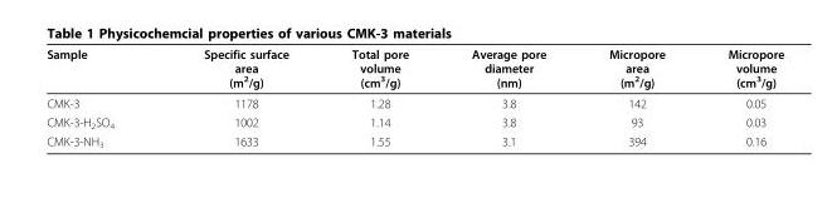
<table><thead><tr><td>Sample</td><td>Specific surface area (m<sup>2</sup>/g)</td><td>Total pore volume (cm<sup>3</sup>/g)</td><td>Average pore diameter (nm)</td><td>Micropore area (m<sup>2</sup>/g)</td><td>Micropore volume (cm<sup>3</sup>/g)</td></tr></thead><tbody><tr><td>CMK-3</td><td>1178</td><td>1.28</td><td>3.8</td><td>142</td><td>0.05</td></tr><tr><td>CMK-3-H<sub>2</sub>SO<sub>4</sub></td><td>1002</td><td>1.14</td><td>3.8</td><td>93</td><td>0.03</td></tr><tr><td>CMK-3-NH<sub>3</sub></td><td>1633</td><td>1.55</td><td>3.1</td><td>394</td><td>0.16</td></tr></tbody></table>